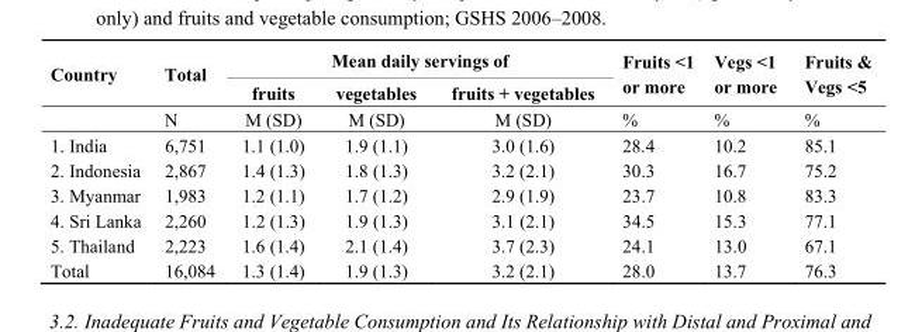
<table><thead><tr><td rowspan="2">Country</td><td rowspan="2">Total</td><td colspan="3">Mean daily servings of</td><td rowspan="2">Fruits &lt;1 or more</td><td rowspan="2">Vegs &lt;1 or more</td><td rowspan="2">Fruits &amp; Vegs &lt;5</td></tr><tr><td>fruits</td><td>vegetables</td><td>fruits + vegetables</td></tr></thead><tbody><tr><td></td><td>N</td><td>M (SD)</td><td>M (SD)</td><td>M (SD)</td><td>%</td><td>%</td><td>%</td></tr><tr><td>1. India</td><td>6,751</td><td>1.1 (1.0)</td><td>1.9 (1.1)</td><td>3.0 (1.6)</td><td>28.4</td><td>10.2</td><td>85.1</td></tr><tr><td>2. Indonesia</td><td>2,867</td><td>1.4 (1.3)</td><td>1.8 (1.3)</td><td>3.2 (2.1)</td><td>30.3</td><td>16.7</td><td>75.2</td></tr><tr><td>3. Myanmar</td><td>1,983</td><td>1.2 (1.1)</td><td>1.7 (1.2)</td><td>2.9 (1.9)</td><td>23.7</td><td>10.8</td><td>83.3</td></tr><tr><td>4. Sri Lanka</td><td>2,260</td><td>1.2 (1.3)</td><td>1.9 (1.3)</td><td>3.1 (2.1)</td><td>34.5</td><td>15.3</td><td>77.1</td></tr><tr><td>5. Thailand</td><td>2,223</td><td>1.6 (1.4)</td><td>2.1 (1.4)</td><td>3.7 (2.3)</td><td>24.1</td><td>13.0</td><td>67.1</td></tr><tr><td>Total</td><td>16,084</td><td>1.3 (1.4)</td><td>1.9 (1.3)</td><td>3.2 (2.1)</td><td>28.0</td><td>13.7</td><td>76.3</td></tr></tbody></table>